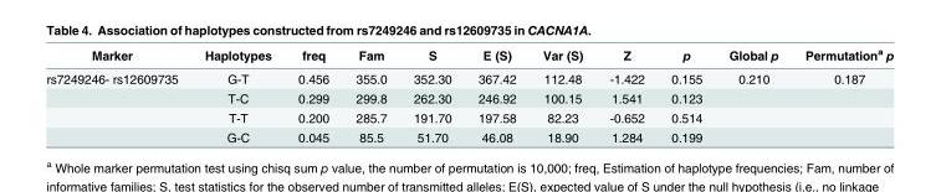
<table><thead><tr><td>Marker</td><td>Haplotypes</td><td>freq</td><td>Fam</td><td>S</td><td>E (S)</td><td>Var (S)</td><td>Z</td><td>p</td><td>Global p</td><td>Permutation<sup>a</sup> p</td></tr></thead><tbody><tr><td rowspan="4">rs7249246- rs12609735</td><td>G-T</td><td>0.456</td><td>355.0</td><td>352.30</td><td>367.42</td><td>112.48</td><td>-1.422</td><td>0.155</td><td>0.210</td><td>0.187</td></tr><tr><td>T-C</td><td>0.299</td><td>299.8</td><td>262.30</td><td>246.92</td><td>100.15</td><td>1.541</td><td>0.123</td><td></td><td></td></tr><tr><td>T-T</td><td>0.200</td><td>285.7</td><td>191.70</td><td>197.58</td><td>82.23</td><td>-0.652</td><td>0.514</td><td></td><td></td></tr><tr><td>G-C</td><td>0.045</td><td>85.5</td><td>51.70</td><td>46.08</td><td>18.90</td><td>1.284</td><td>0.199</td><td></td><td></td></tr></tbody></table>